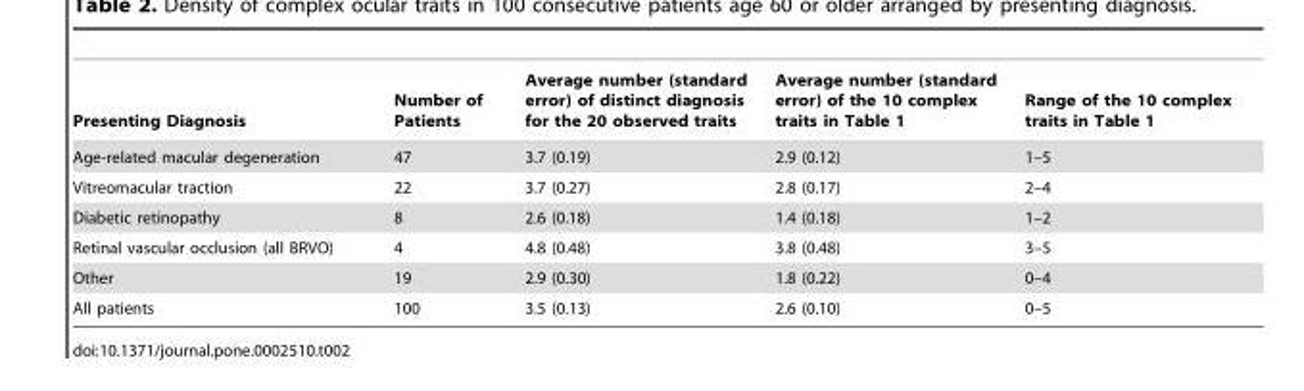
<table><thead><tr><td>Presenting Diagnosis</td><td>Number of Patients</td><td>Average number (standard error) of distinct diagnosis for the 20 observed traits</td><td>Average number (standard error) of the 10 complex traits in Table 1</td><td>Range of the 10 complex traits in Table 1</td></tr></thead><tbody><tr><td>Age-related macular degeneration</td><td>47</td><td>3.7 (0.19)</td><td>2.9 (0.12)</td><td>1–5</td></tr><tr><td>Vitreomacular traction</td><td>22</td><td>3.7 (0.27)</td><td>2.8 (0.17)</td><td>2–4</td></tr><tr><td>Diabetic retinopathy</td><td>8</td><td>2.6 (0.18)</td><td>1.4 (0.18)</td><td>1–2</td></tr><tr><td>Retinal vascular occlusion (all BRVO)</td><td>4</td><td>4.8 (0.48)</td><td>3.8 (0.48)</td><td>3–5</td></tr><tr><td>Other</td><td>19</td><td>2.9 (0.30)</td><td>1.8 (0.22)</td><td>0–4</td></tr><tr><td>All patients</td><td>100</td><td>3.5 (0.13)</td><td>2.6 (0.10)</td><td>0–5</td></tr></tbody></table>